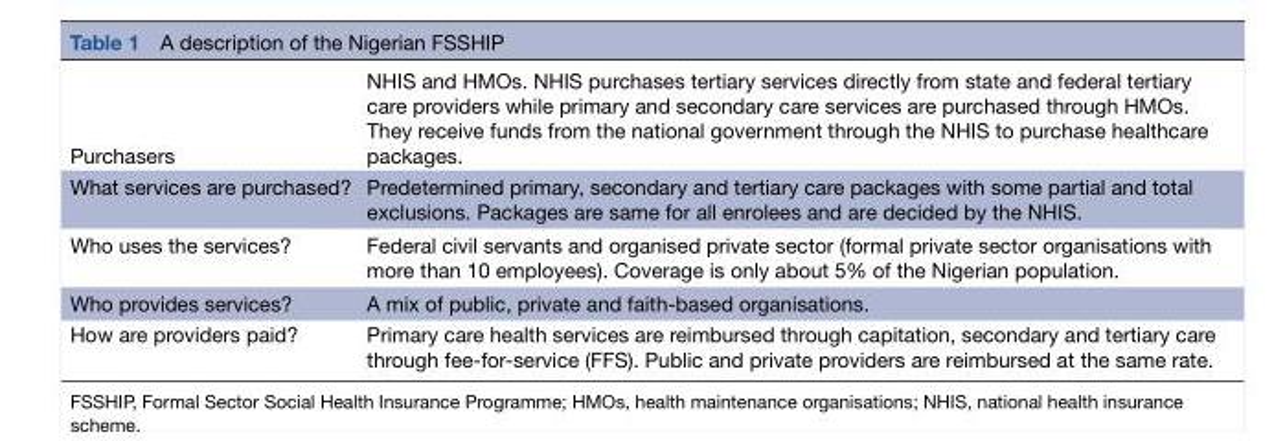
<table><tbody><tr><td>Purchasers</td><td>NHIS and HMOs. NHIS purchases tertiary services directly from state and federal tertiary care providers while primary and secondary care services are purchased through HMOs. They receive funds from the national government through the NHIS to purchase healthcare packages.</td></tr><tr><td>What services are purchased?</td><td>Predetermined primary, secondary and tertiary care packages with some partial and total exclusions. Packages are same for all enrolees and are decided by the NHIS.</td></tr><tr><td>Who uses the services?</td><td>Federal civil servants and organised private sector (formal private sector organisations with more than 10 employees). Coverage is only about 5% of the Nigerian population.</td></tr><tr><td>Who provides services?</td><td>A mix of public, private and faith-based organisations.</td></tr><tr><td>How are providers paid?</td><td>Primary care health services are reimbursed through capitation, secondary and tertiary care through fee-for-service (FFS). Public and private providers are reimbursed at the same rate.</td></tr></tbody></table>